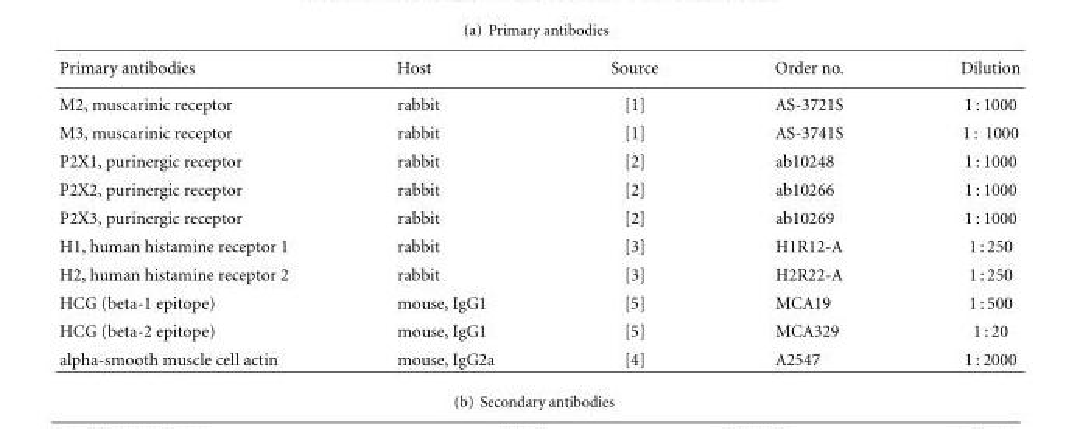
<table><thead><tr><td>Primary antibodies</td><td>Host</td><td>Source</td><td>Order no.</td><td>Dilution</td></tr></thead><tbody><tr><td>M2, muscarinic receptor</td><td>rabbit</td><td>[1]</td><td>AS-3721S</td><td>1 : 1000</td></tr><tr><td>M3, muscarinic receptor</td><td>rabbit</td><td>[1]</td><td>AS-3741S</td><td>1 : 1000</td></tr><tr><td>P2X1, purinergic receptor</td><td>rabbit</td><td>[2]</td><td>ab10248</td><td>1 : 1000</td></tr><tr><td>P2X2, purinergic receptor</td><td>rabbit</td><td>[2]</td><td>ab10266</td><td>1 : 1000</td></tr><tr><td>P2X3, purinergic receptor</td><td>rabbit</td><td>[2]</td><td>ab10269</td><td>1 : 1000</td></tr><tr><td>H1, human histamine receptor 1</td><td>rabbit</td><td>[3]</td><td>H1R12-A</td><td>1 : 250</td></tr><tr><td>H2, human histamine receptor 2</td><td>rabbit</td><td>[3]</td><td>H2R22-A</td><td>1 : 250</td></tr><tr><td>HCG (beta-1 epitope)</td><td>mouse, IgG1</td><td>[5]</td><td>MCA19</td><td>1 : 500</td></tr><tr><td>HCG (beta-2 epitope)</td><td>mouse, IgG1</td><td>[5]</td><td>MCA329</td><td>1 : 20</td></tr><tr><td>alpha-smooth muscle cell actin</td><td>mouse, IgG2a</td><td>[4]</td><td>A2547</td><td>1 : 2000</td></tr></tbody></table>